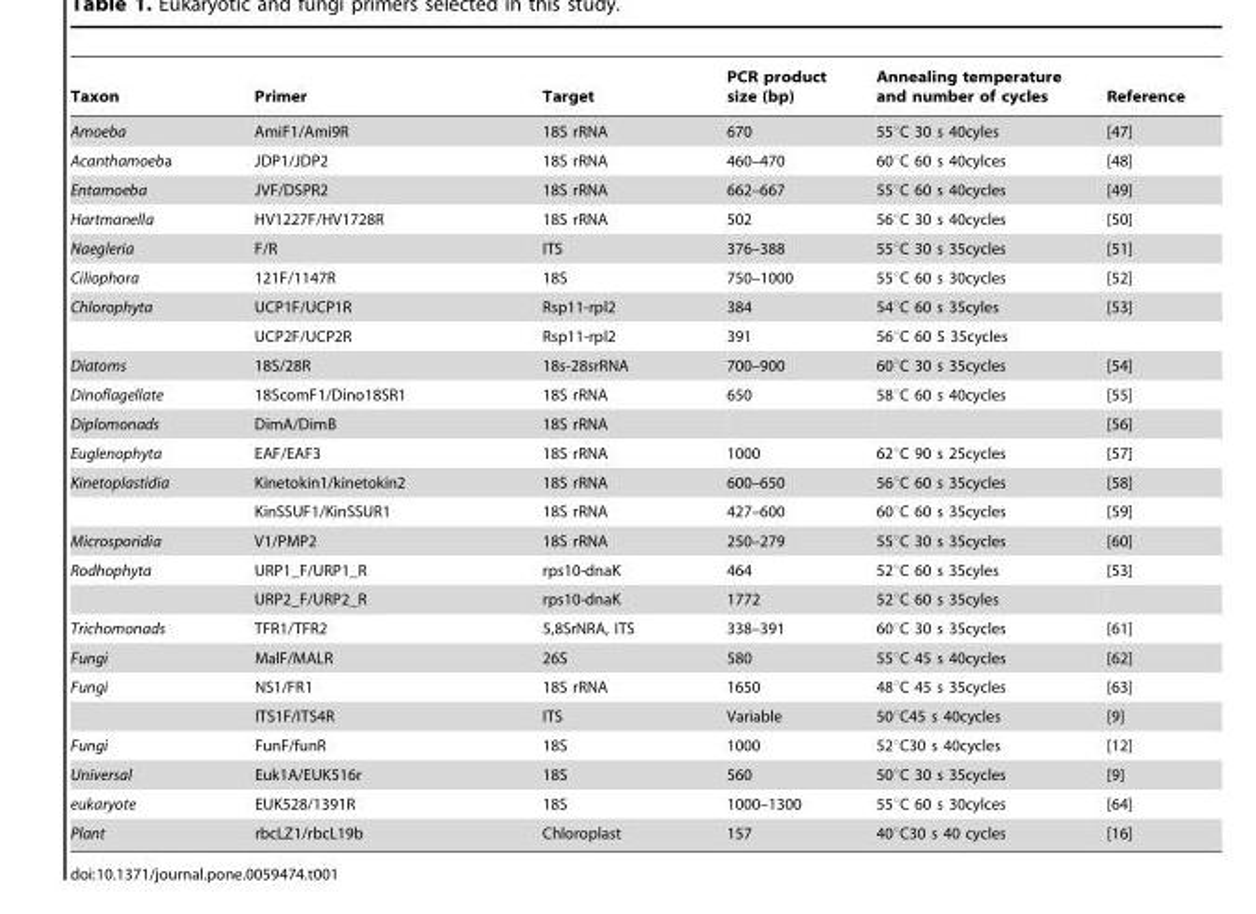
<table><thead><tr><td>Taxon</td><td>Primer</td><td>Target</td><td>PCR product size (bp)</td><td>Annealing temperature and number of cycles</td><td>Reference</td></tr></thead><tbody><tr><td>Amoeba</td><td>AmiF1/Ami9R</td><td>18S rRNA</td><td>670</td><td>55°C 30 s 40cyles</td><td>[47]</td></tr><tr><td>Acanthamoeba</td><td>JDP1/JDP2</td><td>18S rRNA</td><td>460–470</td><td>60°C 60 s 40cylces</td><td>[48]</td></tr><tr><td>Entamoeba</td><td>JVF/DSPR2</td><td>18S rRNA</td><td>662–667</td><td>55°C 60 s 40cycles</td><td>[49]</td></tr><tr><td>Hartmanella</td><td>HV1227F/HV1728R</td><td>18S rRNA</td><td>502</td><td>56°C 30 s 40cycles</td><td>[50]</td></tr><tr><td>Naegleria</td><td>F/R</td><td>ITS</td><td>376–388</td><td>55°C 30 s 35cycles</td><td>[51]</td></tr><tr><td>Ciliophora</td><td>121F/1147R</td><td>18S</td><td>750–1000</td><td>55°C 60 s 30cycles</td><td>[52]</td></tr><tr><td rowspan="2">Chlorophyta</td><td>UCP1F/UCP1R</td><td>Rsp11-rpl2</td><td>384</td><td>54°C 60 s 35cyles</td><td>[53]</td></tr><tr><td>UCP2F/UCP2R</td><td>Rsp11-rpl2</td><td>391</td><td>56°C 60 S 35cycles</td><td></td></tr><tr><td>Diatoms</td><td>18S/28R</td><td>18s-28srRNA</td><td>700–900</td><td>60°C 30 s 35cycles</td><td>[54]</td></tr><tr><td>Dinoflagellate</td><td>18ScomF1/Dino18SR1</td><td>18S rRNA</td><td>650</td><td>58°C 60 s 40cycles</td><td>[55]</td></tr><tr><td>Diplomonads</td><td>DimA/DimB</td><td>18S rRNA</td><td></td><td></td><td>[56]</td></tr><tr><td>Euglenophyta</td><td>EAF/EAF3</td><td>18S rRNA</td><td>1000</td><td>62°C 90 s 25cycles</td><td>[57]</td></tr><tr><td rowspan="2">Kinetoplastidia</td><td>Kinetokin1/kinetokin2</td><td>18S rRNA</td><td>600–650</td><td>56°C 60 s 35cycles</td><td>[58]</td></tr><tr><td>KinSSUF1/KinSSUR1</td><td>18S rRNA</td><td>427–600</td><td>60°C 60 s 35cycles</td><td>[59]</td></tr><tr><td>Microsporidia</td><td>V1/PMP2</td><td>18S rRNA</td><td>250–279</td><td>55°C 30 s 35cycles</td><td>[60]</td></tr><tr><td rowspan="2">Rodhophyta</td><td>URP1_F/URP1_R</td><td>rps10-dnaK</td><td>464</td><td>52°C 60 s 35cyles</td><td>[53]</td></tr><tr><td>URP2_F/URP2_R</td><td>rps10-dnaK</td><td>1772</td><td>52°C 60 s 35cyles</td><td></td></tr><tr><td>Trichomonads</td><td>TFR1/TFR2</td><td>5,8SrNRA, ITS</td><td>338–391</td><td>60°C 30 s 35cycles</td><td>[61]</td></tr><tr><td>Fungi</td><td>MalF/MALR</td><td>26S</td><td>580</td><td>55°C 45 s 40cycles</td><td>[62]</td></tr><tr><td rowspan="2">Fungi</td><td>NS1/FR1</td><td>18S rRNA</td><td>1650</td><td>48°C 45 s 35cycles</td><td>[63]</td></tr><tr><td>ITS1F/ITS4R</td><td>ITS</td><td>Variable</td><td>50°C45 s 40cycles</td><td>[9]</td></tr><tr><td>Fungi</td><td>FunF/funR</td><td>18S</td><td>1000</td><td>52°C30 s 40cycles</td><td>[12]</td></tr><tr><td>Universal</td><td>Euk1A/EUK516r</td><td>18S</td><td>560</td><td>50°C 30 s 35cycles</td><td>[9]</td></tr><tr><td>eukaryote</td><td>EUK528/1391R</td><td>18S</td><td>1000–1300</td><td>55°C 60 s 30cylces</td><td>[64]</td></tr><tr><td>Plant</td><td>rbcLZ1/rbcL19b</td><td>Chloroplast</td><td>157</td><td>40°C30 s 40 cycles</td><td>[16]</td></tr></tbody></table>